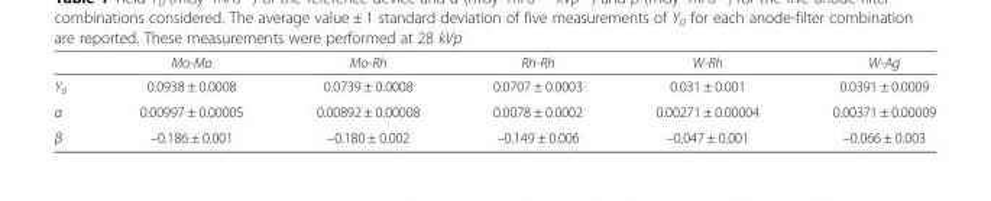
<table><thead><tr><td></td><td>Mo-Mo</td><td>Mo-Rh</td><td>Rh-Rh</td><td>W-Rh</td><td>W-Ag</td></tr></thead><tbody><tr><td>Y<sub>0</sub></td><td>0.0938 ± 0.0008</td><td>0.0739 ± 0.0008</td><td>0.0707 ± 0.0003</td><td>0.031 ± 0.001</td><td>0.0391 ± 0.0009</td></tr><tr><td>α</td><td>0.00997 ± 0.00005</td><td>0.00892 ± 0.00008</td><td>0.0078 ± 0.0002</td><td>0.00271 ± 0.00004</td><td>0.00371 ± 0.00009</td></tr><tr><td>β</td><td>–0.186 ± 0.001</td><td>–0.180 ± 0.002</td><td>–0.149 ± 0.006</td><td>–0.047 ± 0.001</td><td>–0.066 ± 0.003</td></tr></tbody></table>